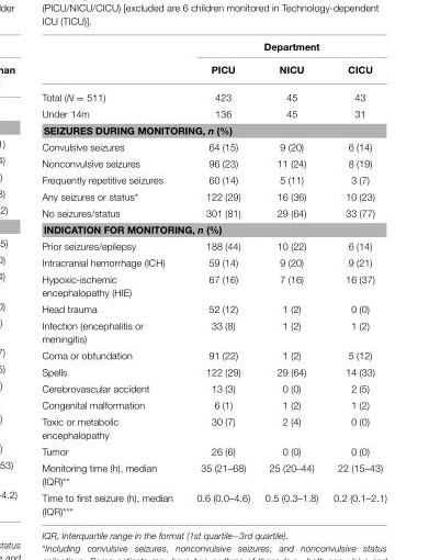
<table><thead><tr><td rowspan="2"></td><td colspan="3">Department</td></tr><tr><td>PICU</td><td>NICU</td><td>CICU</td></tr></thead><tbody><tr><td>Total (N = 511)</td><td>423</td><td>45</td><td>43</td></tr><tr><td>Under 14m</td><td>136</td><td>45</td><td>31</td></tr><tr><td colspan="4">SEIZURES DURING MONITORING, n (%)</td></tr><tr><td>Convulsive seizures</td><td>64 (15)</td><td>9 (20)</td><td>6 (14)</td></tr><tr><td>Nonconvulsive seizures</td><td>96 (23)</td><td>11 (24)</td><td>8 (19)</td></tr><tr><td>Frequently repetitive seizures</td><td>60 (14)</td><td>5 (11)</td><td>3 (7)</td></tr><tr><td>Any seizures or status*</td><td>122 (29)</td><td>16 (36)</td><td>10 (23)</td></tr><tr><td>No seizures/status</td><td>301 (81)</td><td>29 (64)</td><td>33 (77)</td></tr><tr><td colspan="4">INDICATION FOR MONITORING, n (%)</td></tr><tr><td>Prior seizures/epilepsy</td><td>188 (44)</td><td>10 (22)</td><td>6 (14)</td></tr><tr><td>Intracranial hemorrhage (ICH)</td><td>59 (14)</td><td>9 (20)</td><td>9 (21)</td></tr><tr><td>Hypoxic-ischemic encephalopathy (HIE)</td><td>67 (16)</td><td>7 (16)</td><td>16 (37)</td></tr><tr><td>Head trauma</td><td>52 (12)</td><td>1 (2)</td><td>0 (0)</td></tr><tr><td>Infection (encephalitis or meningitis)</td><td>33 (8)</td><td>1 (2)</td><td>1 (2)</td></tr><tr><td>Coma or obtundation</td><td>91 (22)</td><td>1 (2)</td><td>5 (12)</td></tr><tr><td>Spells</td><td>122 (29)</td><td>29 (64)</td><td>14 (33)</td></tr><tr><td>Cerebrovascular accident</td><td>13 (3)</td><td>0 (0)</td><td>2 (5)</td></tr><tr><td>Congenital malformation</td><td>6 (1)</td><td>1 (2)</td><td>1 (2)</td></tr><tr><td>Toxic or metabolic encephalopathy</td><td>30 (7)</td><td>2 (4)</td><td>0 (0)</td></tr><tr><td>Tumor</td><td>26 (6)</td><td>0 (0)</td><td>0 (0)</td></tr><tr><td>Monitoring time (h), median (IQR)**</td><td>35 (21–68)</td><td>25 (20–44)</td><td>22 (15–43)</td></tr><tr><td>Time to first seizure (h), median (IQR)***</td><td>0.6 (0.0–4.6)</td><td>0.5 (0.3–1.8)</td><td>0.2 (0.1–2.1)</td></tr></tbody></table>